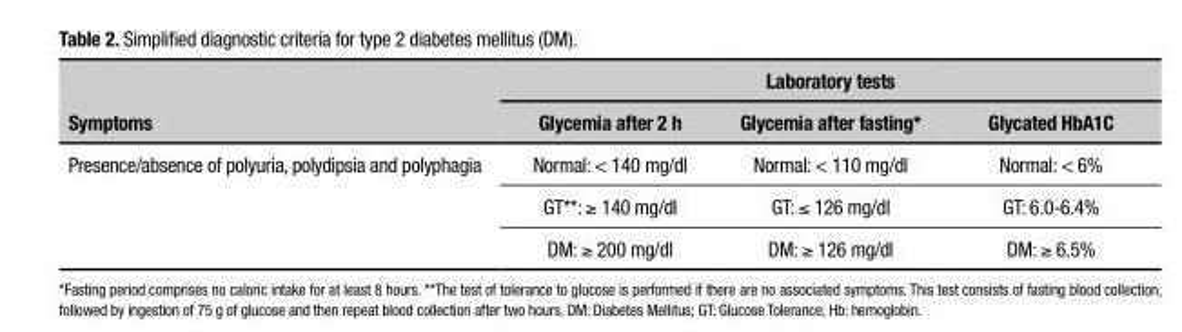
<table><thead><tr><td rowspan="2">Symptoms</td><td colspan="3">Laboratory tests</td></tr><tr><td>Glycemia after 2 h</td><td>Glycemia after fasting*</td><td>Glycated HbA1C</td></tr></thead><tbody><tr><td rowspan="3">Presence/absence of polyuria, polydipsia and polyphagia</td><td>Normal: &lt; 140 mg/dl</td><td>Normal: &lt; 110 mg/dl</td><td>Normal: &lt; 6%</td></tr><tr><td>GT**: ≥ 140 mg/dl</td><td>GT: ≤ 126 mg/dl</td><td>GT: 6.0-6.4%</td></tr><tr><td>DM: ≥ 200 mg/dl</td><td>DM: ≥ 126 mg/dl</td><td>DM: ≥ 6.5%</td></tr></tbody></table>